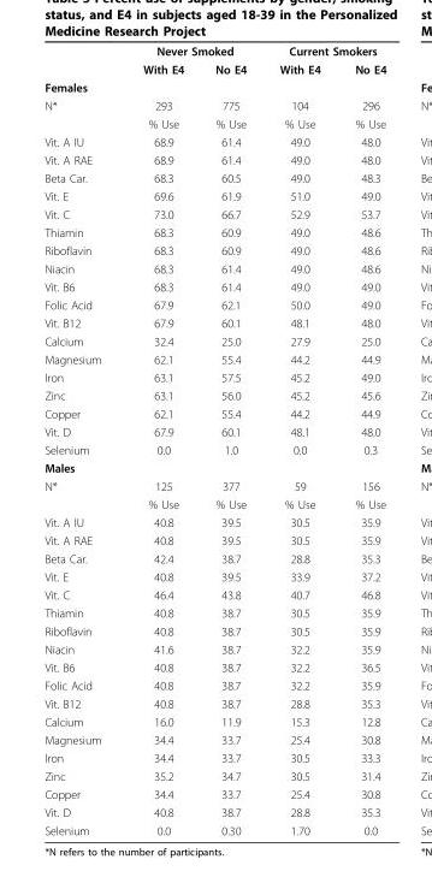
<table><thead><tr><td rowspan="2"></td><td colspan="2">Never Smoked</td><td colspan="2">Current Smokers</td></tr><tr><td>With E4</td><td>No E4</td><td>With E4</td><td>No E4</td></tr></thead><tbody><tr><td colspan="5">Females</td></tr><tr><td rowspan="2">N*</td><td>293</td><td>775</td><td>104</td><td>296</td></tr><tr><td>% Use</td><td>% Use</td><td>% Use</td><td>% Use</td></tr><tr><td>Vit. A IU</td><td>68.9</td><td>61.4</td><td>49.0</td><td>48.0</td></tr><tr><td>Vit. A RAE</td><td>68.9</td><td>61.4</td><td>49.0</td><td>48.0</td></tr><tr><td>Beta Car.</td><td>68.3</td><td>60.5</td><td>49.0</td><td>48.3</td></tr><tr><td>Vit. E</td><td>69.6</td><td>61.9</td><td>51.0</td><td>49.0</td></tr><tr><td>Vit. C</td><td>73.0</td><td>66.7</td><td>52.9</td><td>53.7</td></tr><tr><td>Thiamin</td><td>68.3</td><td>60.9</td><td>49.0</td><td>48.6</td></tr><tr><td>Riboflavin</td><td>68.3</td><td>60.9</td><td>49.0</td><td>48.6</td></tr><tr><td>Niacin</td><td>68.3</td><td>61.4</td><td>49.0</td><td>48.6</td></tr><tr><td>Vit. B6</td><td>68.3</td><td>61.4</td><td>49.0</td><td>49.0</td></tr><tr><td>Folic Acid</td><td>67.9</td><td>62.1</td><td>50.0</td><td>49.0</td></tr><tr><td>Vit. B12</td><td>67.9</td><td>60.1</td><td>48.1</td><td>48.0</td></tr><tr><td>Calcium</td><td>32.4</td><td>25.0</td><td>27.9</td><td>25.0</td></tr><tr><td>Magnesium</td><td>62.1</td><td>55.4</td><td>44.2</td><td>44.9</td></tr><tr><td>Iron</td><td>63.1</td><td>57.5</td><td>45.2</td><td>49.0</td></tr><tr><td>Zinc</td><td>63.1</td><td>56.0</td><td>45.2</td><td>45.6</td></tr><tr><td>Copper</td><td>62.1</td><td>55.4</td><td>44.2</td><td>44.9</td></tr><tr><td>Vit. D</td><td>67.9</td><td>60.1</td><td>48.1</td><td>48.0</td></tr><tr><td>Selenium</td><td>0.0</td><td>1.0</td><td>0.0</td><td>0.3</td></tr><tr><td colspan="5">Males</td></tr><tr><td rowspan="2">N*</td><td>125</td><td>377</td><td>59</td><td>156</td></tr><tr><td>% Use</td><td>% Use</td><td>% Use</td><td>% Use</td></tr><tr><td>Vit. A IU</td><td>40.8</td><td>39.5</td><td>30.5</td><td>35.9</td></tr><tr><td>Vit. A RAE</td><td>40.8</td><td>39.5</td><td>30.5</td><td>35.9</td></tr><tr><td>Beta Car.</td><td>42.4</td><td>38.7</td><td>28.8</td><td>35.3</td></tr><tr><td>Vit. E</td><td>40.8</td><td>39.5</td><td>33.9</td><td>37.2</td></tr><tr><td>Vit. C</td><td>46.4</td><td>43.8</td><td>40.7</td><td>46.8</td></tr><tr><td>Thiamin</td><td>40.8</td><td>38.7</td><td>30.5</td><td>35.9</td></tr><tr><td>Riboflavin</td><td>40.8</td><td>38.7</td><td>30.5</td><td>35.9</td></tr><tr><td>Niacin</td><td>41.6</td><td>38.7</td><td>32.2</td><td>35.9</td></tr><tr><td>Vit. B6</td><td>40.8</td><td>38.7</td><td>32.2</td><td>36.5</td></tr><tr><td>Folic Acid</td><td>40.8</td><td>38.7</td><td>32.2</td><td>35.9</td></tr><tr><td>Vit. B12</td><td>40.8</td><td>38.7</td><td>28.8</td><td>35.3</td></tr><tr><td>Calcium</td><td>16.0</td><td>11.9</td><td>15.3</td><td>12.8</td></tr><tr><td>Magnesium</td><td>34.4</td><td>33.7</td><td>25.4</td><td>30.8</td></tr><tr><td>Iron</td><td>34.4</td><td>33.7</td><td>30.5</td><td>33.3</td></tr><tr><td>Zinc</td><td>35.2</td><td>34.7</td><td>30.5</td><td>31.4</td></tr><tr><td>Copper</td><td>34.4</td><td>33.7</td><td>25.4</td><td>30.8</td></tr><tr><td>Vit. D</td><td>40.8</td><td>38.7</td><td>28.8</td><td>35.3</td></tr><tr><td>Selenium</td><td>0.0</td><td>0.30</td><td>1.70</td><td>0.0</td></tr></tbody></table>